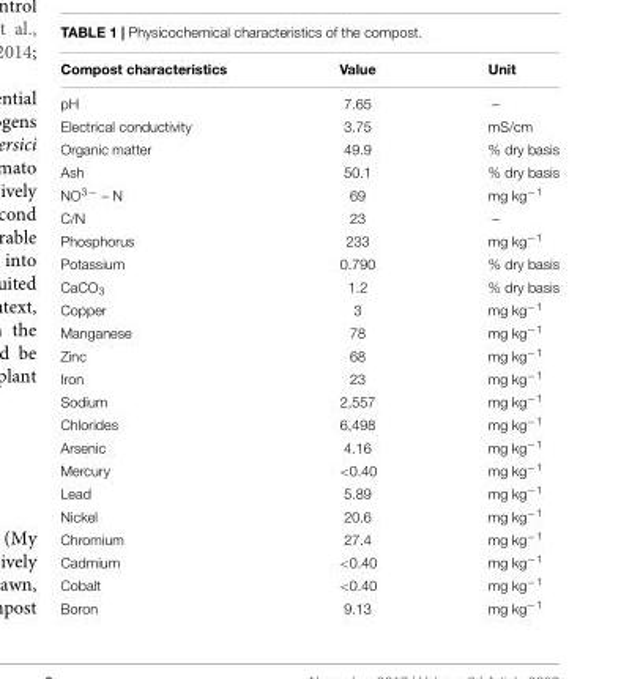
<table><thead><tr><td>Compost characteristics</td><td>Value</td><td>Unit</td></tr></thead><tbody><tr><td>pH</td><td>7.65</td><td>–</td></tr><tr><td>Electrical conductivity</td><td>3.75</td><td>mS/cm</td></tr><tr><td>Organic matter</td><td>49.9</td><td>% dry basis</td></tr><tr><td>Ash</td><td>50.1</td><td>% dry basis</td></tr><tr><td>NO<sup>3−</sup> – N</td><td>69</td><td>mg kg<sup>−1</sup></td></tr><tr><td>C/N</td><td>23</td><td>–</td></tr><tr><td>Phosphorus</td><td>233</td><td>mg kg<sup>−1</sup></td></tr><tr><td>Potassium</td><td>0.790</td><td>% dry basis</td></tr><tr><td>CaCO<sub>3</sub></td><td>1.2</td><td>% dry basis</td></tr><tr><td>Copper</td><td>3</td><td>mg kg<sup>−1</sup></td></tr><tr><td>Manganese</td><td>78</td><td>mg kg<sup>−1</sup></td></tr><tr><td>Zinc</td><td>68</td><td>mg kg<sup>−1</sup></td></tr><tr><td>Iron</td><td>23</td><td>mg kg<sup>−1</sup></td></tr><tr><td>Sodium</td><td>2,557</td><td>mg kg<sup>−1</sup></td></tr><tr><td>Chlorides</td><td>6,498</td><td>mg kg<sup>−1</sup></td></tr><tr><td>Arsenic</td><td>4.16</td><td>mg kg<sup>−1</sup></td></tr><tr><td>Mercury</td><td>&lt;0.40</td><td>mg kg<sup>−1</sup></td></tr><tr><td>Lead</td><td>5.89</td><td>mg kg<sup>−1</sup></td></tr><tr><td>Nickel</td><td>20.6</td><td>mg kg<sup>−1</sup></td></tr><tr><td>Chromium</td><td>27.4</td><td>mg kg<sup>−1</sup></td></tr><tr><td>Cadmium</td><td>&lt;0.40</td><td>mg kg<sup>−1</sup></td></tr><tr><td>Cobalt</td><td>&lt;0.40</td><td>mg kg<sup>−1</sup></td></tr><tr><td>Boron</td><td>9.13</td><td>mg kg<sup>−1</sup></td></tr></tbody></table>